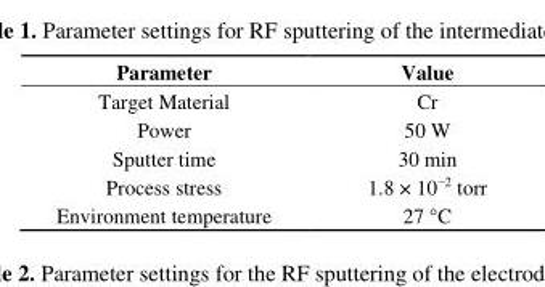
<table><thead><tr><td>Parameter</td><td>Value</td></tr></thead><tbody><tr><td>Target Material</td><td>Cr</td></tr><tr><td>Power</td><td>50 W</td></tr><tr><td>Sputter time</td><td>30 min</td></tr><tr><td>Process stress</td><td>1.8 × 10<sup>−2</sup> torr</td></tr><tr><td>Environment temperature</td><td>27 °C</td></tr></tbody></table>